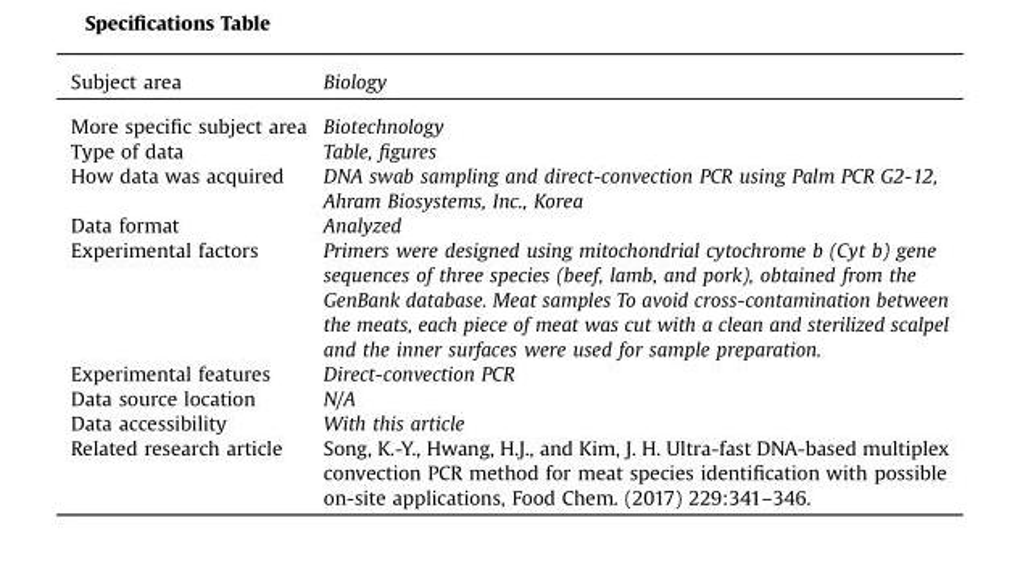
<table><thead><tr><td>Subject area</td><td>Biology</td></tr></thead><tbody><tr><td>More specific subject area</td><td>Biotechnology</td></tr><tr><td>Type of data</td><td>Table, figures</td></tr><tr><td>How data was acquired</td><td>DNA swab sampling and direct-convection PCR using Palm PCR G2-12, Ahram Biosystems, Inc., Korea</td></tr><tr><td>Data format</td><td>Analyzed</td></tr><tr><td>Experimental factors</td><td>Primers were designed using mitochondrial cytochrome b (Cyt b) gene sequences of three species (beef, lamb, and pork), obtained from the GenBank database. Meat samples To avoid cross-contamination between the meats, each piece of meat was cut with a clean and sterilized scalpel and the inner surfaces were used for sample preparation.</td></tr><tr><td>Experimental features</td><td>Direct-convection PCR</td></tr><tr><td>Data source location</td><td>N/A</td></tr><tr><td>Data accessibility</td><td>With this article</td></tr><tr><td>Related research article</td><td>Song, K.-Y., Hwang, H.J., and Kim, J. H. Ultra-fast DNA-based multiplex convection PCR method for meat species identification with possible on-site applications, Food Chem. (2017) 229:341–346.</td></tr></tbody></table>